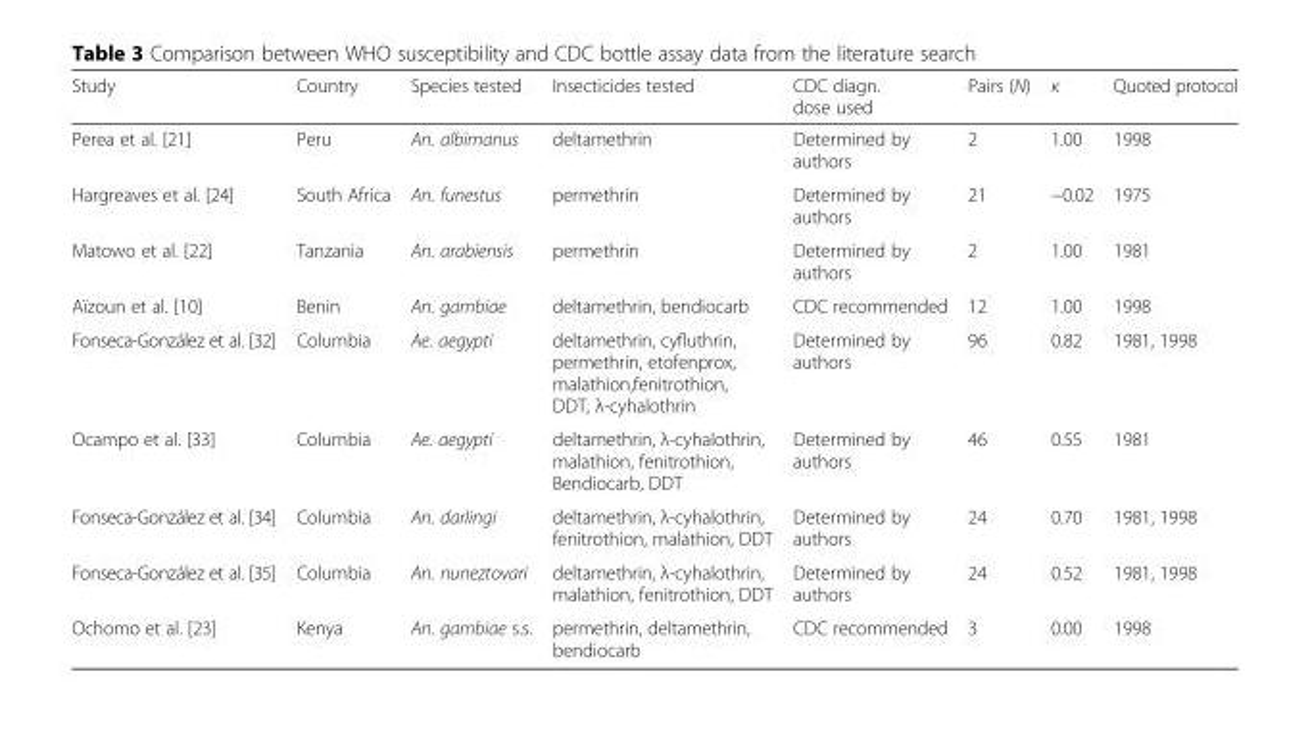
<table><thead><tr><td>Study</td><td>Country</td><td>Species tested</td><td>Insecticides tested</td><td>CDC diagn. dose used</td><td>Pairs (N)</td><td>κ</td><td>Quoted protocol</td></tr></thead><tbody><tr><td>Perea et al. [21]</td><td>Peru</td><td>An. albimanus</td><td>deltamethrin</td><td>Determined by authors</td><td>2</td><td>1.00</td><td>1998</td></tr><tr><td>Hargreaves et al. [24]</td><td>South Africa</td><td>An. funestus</td><td>permethrin</td><td>Determined by authors</td><td>21</td><td>−0.02</td><td>1975</td></tr><tr><td>Matowo et al. [22]</td><td>Tanzania</td><td>An. arabiensis</td><td>permethrin</td><td>Determined by authors</td><td>2</td><td>1.00</td><td>1981</td></tr><tr><td>Aïzoun et al. [10]</td><td>Benin</td><td>An. gambiae</td><td>deltamethrin, bendiocarb</td><td>CDC recommended</td><td>12</td><td>1.00</td><td>1998</td></tr><tr><td>Fonseca-González et al. [32]</td><td>Columbia</td><td>Ae. aegypti</td><td>deltamethrin, cyfluthrin, permethrin, etofenprox, malathion,fenitrothion, DDT, λ-cyhalothrin</td><td>Determined by authors</td><td>96</td><td>0.82</td><td>1981, 1998</td></tr><tr><td>Ocampo et al. [33]</td><td>Columbia</td><td>Ae. aegypti</td><td>deltamethrin, λ-cyhalothrin, malathion, fenitrothion, Bendiocarb, DDT</td><td>Determined by authors</td><td>46</td><td>0.55</td><td>1981</td></tr><tr><td>Fonseca-González et al. [34]</td><td>Columbia</td><td>An. darlingi</td><td>deltamethrin, λ-cyhalothrin, fenitrothion, malathion, DDT</td><td>Determined by authors</td><td>24</td><td>0.70</td><td>1981, 1998</td></tr><tr><td>Fonseca-González et al. [35]</td><td>Columbia</td><td>An. nuneztovari</td><td>deltamethrin, λ-cyhalothrin, malathion, fenitrothion, DDT</td><td>Determined by authors</td><td>24</td><td>0.52</td><td>1981, 1998</td></tr><tr><td>Ochomo et al. [23]</td><td>Kenya</td><td>An. gambiae s.s.</td><td>permethrin, deltamethrin, bendiocarb</td><td>CDC recommended</td><td>3</td><td>0.00</td><td>1998</td></tr></tbody></table>